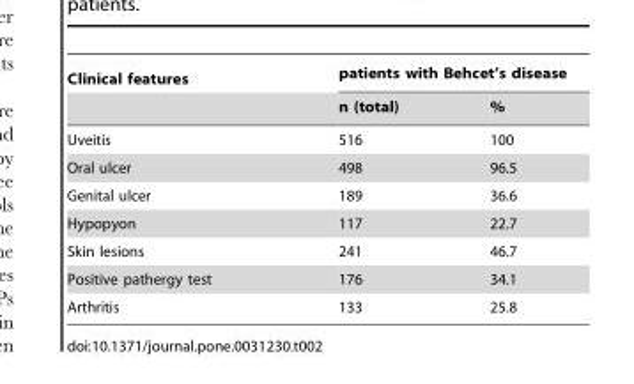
<table><thead><tr><td rowspan="2">Clinical features</td><td colspan="2">patients with Behcet’s disease</td></tr><tr><td>n (total)</td><td>%</td></tr></thead><tbody><tr><td>Uveitis</td><td>516</td><td>100</td></tr><tr><td>Oral ulcer</td><td>498</td><td>96.5</td></tr><tr><td>Genital ulcer</td><td>189</td><td>36.6</td></tr><tr><td>Hypopyon</td><td>117</td><td>22.7</td></tr><tr><td>Skin lesions</td><td>241</td><td>46.7</td></tr><tr><td>Positive pathergy test</td><td>176</td><td>34.1</td></tr><tr><td>Arthritis</td><td>133</td><td>25.8</td></tr></tbody></table>